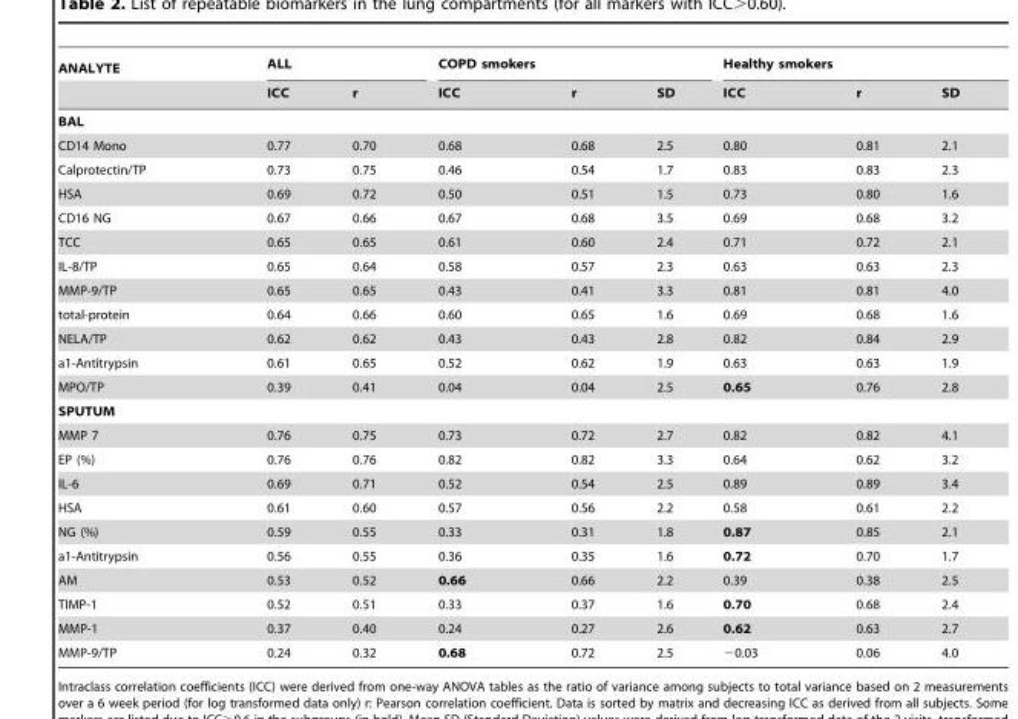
<table><thead><tr><td rowspan="2">ANALYTE</td><td colspan="2">ALL</td><td colspan="3">COPD smokers</td><td colspan="3">Healthy smokers</td></tr><tr><td>ICC</td><td>r</td><td>ICC</td><td>r</td><td>SD</td><td>ICC</td><td>r</td><td>SD</td></tr></thead><tbody><tr><td colspan="9">BAL</td></tr><tr><td>CD14 Mono</td><td>0.77</td><td>0.70</td><td>0.68</td><td>0.68</td><td>2.5</td><td>0.80</td><td>0.81</td><td>2.1</td></tr><tr><td>Calprotectin/TP</td><td>0.73</td><td>0.75</td><td>0.46</td><td>0.54</td><td>1.7</td><td>0.83</td><td>0.83</td><td>2.3</td></tr><tr><td>HSA</td><td>0.69</td><td>0.72</td><td>0.50</td><td>0.51</td><td>1.5</td><td>0.73</td><td>0.80</td><td>1.6</td></tr><tr><td>CD16 NG</td><td>0.67</td><td>0.66</td><td>0.67</td><td>0.68</td><td>3.5</td><td>0.69</td><td>0.68</td><td>3.2</td></tr><tr><td>TCC</td><td>0.65</td><td>0.65</td><td>0.61</td><td>0.60</td><td>2.4</td><td>0.71</td><td>0.72</td><td>2.1</td></tr><tr><td>IL-8/TP</td><td>0.65</td><td>0.64</td><td>0.58</td><td>0.57</td><td>2.3</td><td>0.63</td><td>0.63</td><td>2.3</td></tr><tr><td>MMP-9/TP</td><td>0.65</td><td>0.65</td><td>0.43</td><td>0.41</td><td>3.3</td><td>0.81</td><td>0.81</td><td>4.0</td></tr><tr><td>total-protein</td><td>0.64</td><td>0.66</td><td>0.60</td><td>0.65</td><td>1.6</td><td>0.69</td><td>0.68</td><td>1.6</td></tr><tr><td>NELA/TP</td><td>0.62</td><td>0.62</td><td>0.43</td><td>0.43</td><td>2.8</td><td>0.82</td><td>0.84</td><td>2.9</td></tr><tr><td>a1-Antitrypsin</td><td>0.61</td><td>0.65</td><td>0.52</td><td>0.62</td><td>1.9</td><td>0.63</td><td>0.63</td><td>1.9</td></tr><tr><td>MPO/TP</td><td>0.39</td><td>0.41</td><td>0.04</td><td>0.04</td><td>2.5</td><td>0.65</td><td>0.76</td><td>2.8</td></tr><tr><td colspan="9">SPUTUM</td></tr><tr><td>MMP 7</td><td>0.76</td><td>0.75</td><td>0.73</td><td>0.72</td><td>2.7</td><td>0.82</td><td>0.82</td><td>4.1</td></tr><tr><td>EP (%)</td><td>0.76</td><td>0.76</td><td>0.82</td><td>0.82</td><td>3.3</td><td>0.64</td><td>0.62</td><td>3.2</td></tr><tr><td>IL-6</td><td>0.69</td><td>0.71</td><td>0.52</td><td>0.54</td><td>2.5</td><td>0.89</td><td>0.89</td><td>3.4</td></tr><tr><td>HSA</td><td>0.61</td><td>0.60</td><td>0.57</td><td>0.56</td><td>2.2</td><td>0.58</td><td>0.61</td><td>2.2</td></tr><tr><td>NG (%)</td><td>0.59</td><td>0.55</td><td>0.33</td><td>0.31</td><td>1.8</td><td>0.87</td><td>0.85</td><td>2.1</td></tr><tr><td>a1-Antitrypsin</td><td>0.56</td><td>0.55</td><td>0.36</td><td>0.35</td><td>1.6</td><td>0.72</td><td>0.70</td><td>1.7</td></tr><tr><td>AM</td><td>0.53</td><td>0.52</td><td>0.66</td><td>0.66</td><td>2.2</td><td>0.39</td><td>0.38</td><td>2.5</td></tr><tr><td>TIMP-1</td><td>0.52</td><td>0.51</td><td>0.33</td><td>0.37</td><td>1.6</td><td>0.70</td><td>0.68</td><td>2.4</td></tr><tr><td>MMP-1</td><td>0.37</td><td>0.40</td><td>0.24</td><td>0.27</td><td>2.6</td><td>0.62</td><td>0.63</td><td>2.7</td></tr><tr><td>MMP-9/TP</td><td>0.24</td><td>0.32</td><td>0.68</td><td>0.72</td><td>2.5</td><td>−0.03</td><td>0.06</td><td>4.0</td></tr></tbody></table>